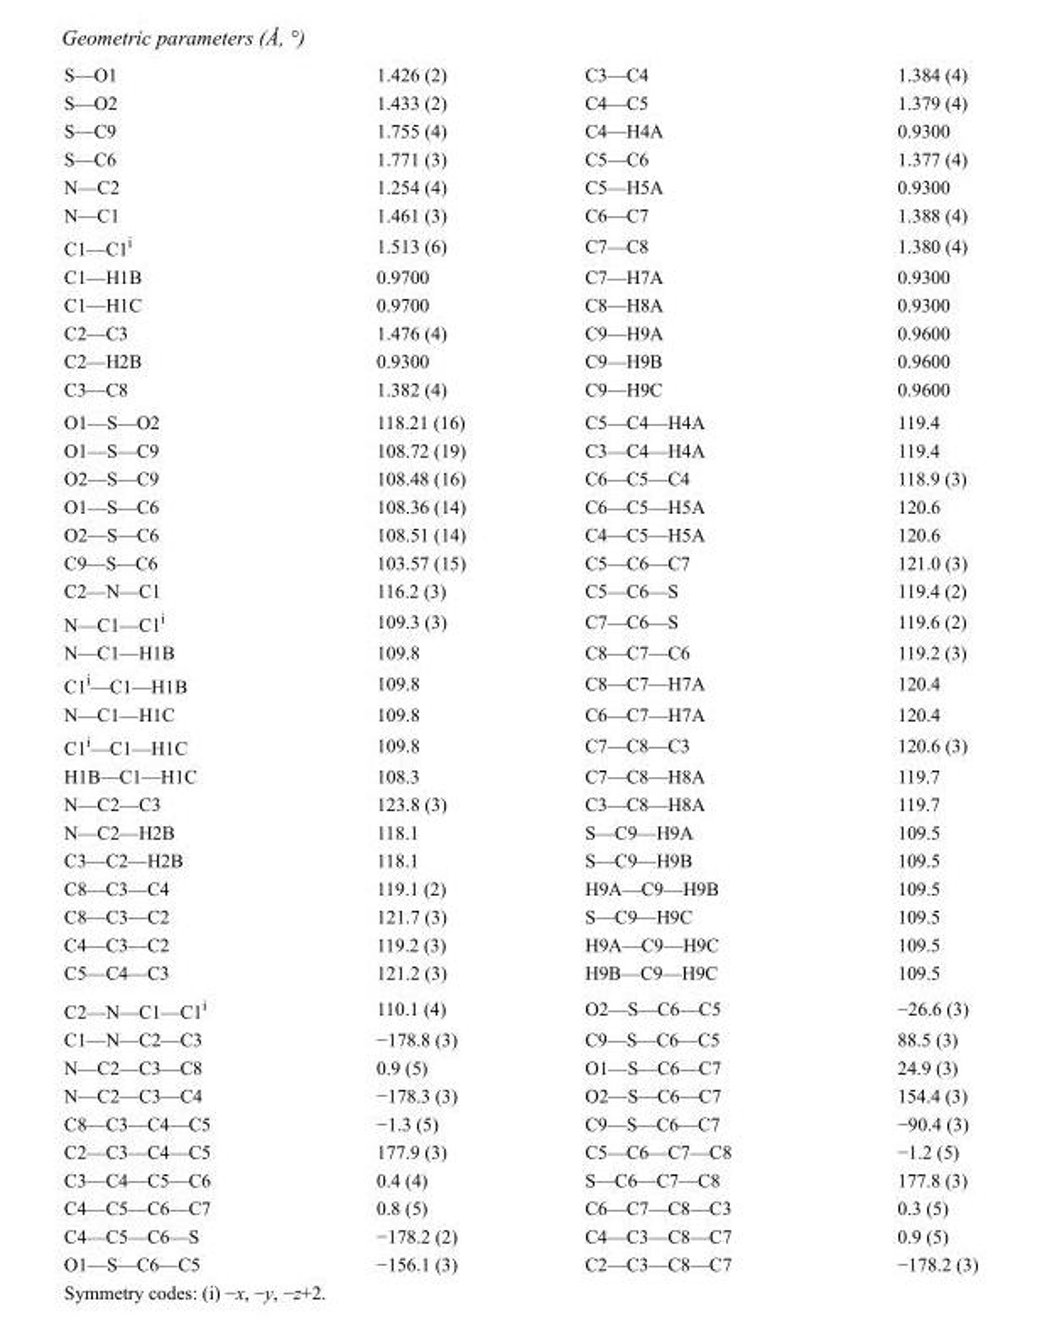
<table><tbody><tr><td>S—O1</td><td>1.426 (2)</td><td>C3—C4</td><td>1.384 (4)</td></tr><tr><td>S—O2</td><td>1.433 (2)</td><td>C4—C5</td><td>1.379 (4)</td></tr><tr><td>S—C9</td><td>1.755 (4)</td><td>C4—H4A</td><td>0.9300</td></tr><tr><td>S—C6</td><td>1.771 (3)</td><td>C5—C6</td><td>1.377 (4)</td></tr><tr><td>N—C2</td><td>1.254 (4)</td><td>C5—H5A</td><td>0.9300</td></tr><tr><td>N—C1</td><td>1.461 (3)</td><td>C6—C7</td><td>1.388 (4)</td></tr><tr><td>C1—C1<sup>i</sup></td><td>1.513 (6)</td><td>C7—C8</td><td>1.380 (4)</td></tr><tr><td>C1—H1B</td><td>0.9700</td><td>C7—H7A</td><td>0.9300</td></tr><tr><td>C1—H1C</td><td>0.9700</td><td>C8—H8A</td><td>0.9300</td></tr><tr><td>C2—C3</td><td>1.476 (4)</td><td>C9—H9A</td><td>0.9600</td></tr><tr><td>C2—H2B</td><td>0.9300</td><td>C9—H9B</td><td>0.9600</td></tr><tr><td>C3—C8</td><td>1.382 (4)</td><td>C9—H9C</td><td>0.9600</td></tr><tr><td>O1—S—O2</td><td>118.21 (16)</td><td>C5—C4—H4A</td><td>119.4</td></tr><tr><td>O1—S—C9</td><td>108.72 (19)</td><td>C3—C4—H4A</td><td>119.4</td></tr><tr><td>O2—S—C9</td><td>108.48 (16)</td><td>C6—C5—C4</td><td>118.9 (3)</td></tr><tr><td>O1—S—C6</td><td>108.36 (14)</td><td>C6—C5—H5A</td><td>120.6</td></tr><tr><td>O2—S—C6</td><td>108.51 (14)</td><td>C4—C5—H5A</td><td>120.6</td></tr><tr><td>C9—S—C6</td><td>103.57 (15)</td><td>C5—C6—C7</td><td>121.0 (3)</td></tr><tr><td>C2—N—C1</td><td>116.2 (3)</td><td>C5—C6—S</td><td>119.4 (2)</td></tr><tr><td>N—C1—C1<sup>i</sup></td><td>109.3 (3)</td><td>C7—C6—S</td><td>119.6 (2)</td></tr><tr><td>N—C1—H1B</td><td>109.8</td><td>C8—C7—C6</td><td>119.2 (3)</td></tr><tr><td>C1<sup>i</sup>—C1—H1B</td><td>109.8</td><td>C8—C7—H7A</td><td>120.4</td></tr><tr><td>N—C1—H1C</td><td>109.8</td><td>C6—C7—H7A</td><td>120.4</td></tr><tr><td>C1<sup>i</sup>—C1—H1C</td><td>109.8</td><td>C7—C8—C3</td><td>120.6 (3)</td></tr><tr><td>H1B—C1—H1C</td><td>108.3</td><td>C7—C8—H8A</td><td>119.7</td></tr><tr><td>N—C2—C3</td><td>123.8 (3)</td><td>C3—C8—H8A</td><td>119.7</td></tr><tr><td>N—C2—H2B</td><td>118.1</td><td>S—C9—H9A</td><td>109.5</td></tr><tr><td>C3—C2—H2B</td><td>118.1</td><td>S—C9—H9B</td><td>109.5</td></tr><tr><td>C8—C3—C4</td><td>119.1 (2)</td><td>H9A—C9—H9B</td><td>109.5</td></tr><tr><td>C8—C3—C2</td><td>121.7 (3)</td><td>S—C9—H9C</td><td>109.5</td></tr><tr><td>C4—C3—C2</td><td>119.2 (3)</td><td>H9A—C9—H9C</td><td>109.5</td></tr><tr><td>C5—C4—C3</td><td>121.2 (3)</td><td>H9B—C9—H9C</td><td>109.5</td></tr><tr><td>C2—N—C1—C1<sup>i</sup></td><td>110.1 (4)</td><td>O2—S—C6—C5</td><td>−26.6 (3)</td></tr><tr><td>C1—N—C2—C3</td><td>−178.8 (3)</td><td>C9—S—C6—C5</td><td>88.5 (3)</td></tr><tr><td>N—C2—C3—C8</td><td>0.9 (5)</td><td>O1—S—C6—C7</td><td>24.9 (3)</td></tr><tr><td>N—C2—C3—C4</td><td>−178.3 (3)</td><td>O2—S—C6—C7</td><td>154.4 (3)</td></tr><tr><td>C8—C3—C4—C5</td><td>−1.3 (5)</td><td>C9—S—C6—C7</td><td>−90.4 (3)</td></tr><tr><td>C2—C3—C4—C5</td><td>177.9 (3)</td><td>C5—C6—C7—C8</td><td>−1.2 (5)</td></tr><tr><td>C3—C4—C5—C6</td><td>0.4 (4)</td><td>S—C6—C7—C8</td><td>177.8 (3)</td></tr><tr><td>C4—C5—C6—C7</td><td>0.8 (5)</td><td>C6—C7—C8—C3</td><td>0.3 (5)</td></tr><tr><td>C4—C5—C6—S</td><td>−178.2 (2)</td><td>C4—C3—C8—C7</td><td>0.9 (5)</td></tr><tr><td>O1—S—C6—C5</td><td>−156.1 (3)</td><td>C2—C3—C8—C7</td><td>−178.2 (3)</td></tr></tbody></table>